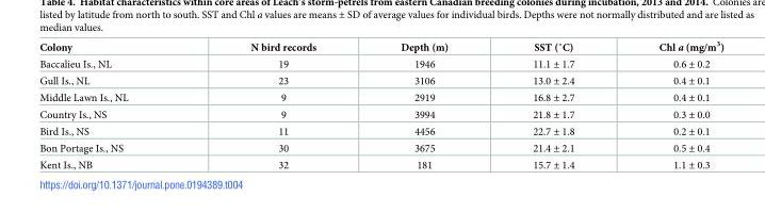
<table><thead><tr><td>Colony</td><td>N bird records</td><td>Depth (m)</td><td>SST (˚C)</td><td>Chl a (mg/m<sup>3</sup>)</td></tr></thead><tbody><tr><td>Baccalieu Is., NL</td><td>19</td><td>1946</td><td>11.1 ± 1.7</td><td>0.6 ± 0.2</td></tr><tr><td>Gull Is., NL</td><td>23</td><td>3106</td><td>13.0 ± 2.4</td><td>0.4 ± 0.1</td></tr><tr><td>Middle Lawn Is., NL</td><td>9</td><td>2919</td><td>16.8 ± 2.7</td><td>0.4 ± 0.1</td></tr><tr><td>Country Is., NS</td><td>9</td><td>3994</td><td>21.8 ± 1.7</td><td>0.3 ± 0.0</td></tr><tr><td>Bird Is., NS</td><td>11</td><td>4456</td><td>22.7 ± 1.8</td><td>0.2 ± 0.1</td></tr><tr><td>Bon Portage Is., NS</td><td>30</td><td>3675</td><td>21.4 ± 2.1</td><td>0.5 ± 0.4</td></tr><tr><td>Kent Is., NB</td><td>32</td><td>181</td><td>15.7 ± 1.4</td><td>1.1 ± 0.3</td></tr></tbody></table>